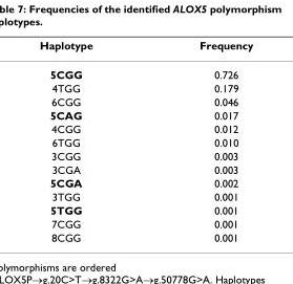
<table><thead><tr><td>Haplotype</td><td>Frequency</td></tr></thead><tbody><tr><td>5CGG</td><td>0.726</td></tr><tr><td>4TGG</td><td>0.179</td></tr><tr><td>6CGG</td><td>0.046</td></tr><tr><td>5CAG</td><td>0.017</td></tr><tr><td>4CGG</td><td>0.012</td></tr><tr><td>6TGG</td><td>0.010</td></tr><tr><td>3CGG</td><td>0.003</td></tr><tr><td>3CGA</td><td>0.003</td></tr><tr><td>5CGA</td><td>0.002</td></tr><tr><td>3TGG</td><td>0.001</td></tr><tr><td>5TGG</td><td>0.001</td></tr><tr><td>7CGG</td><td>0.001</td></tr><tr><td>8CGG</td><td>0.001</td></tr></tbody></table>